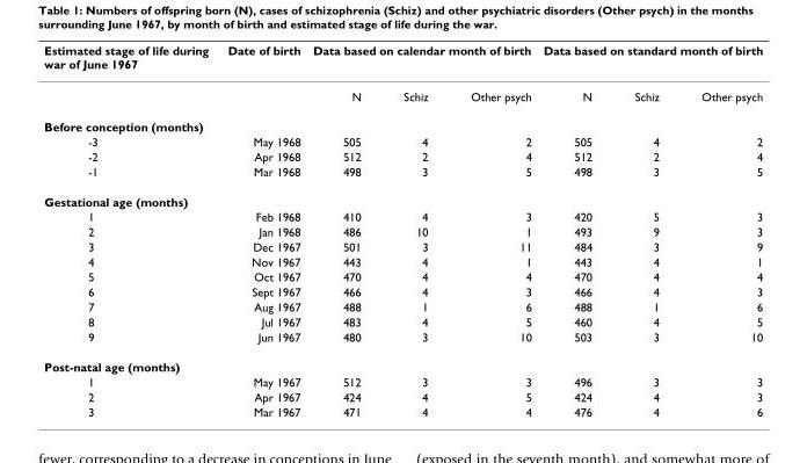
<table><thead><tr><td rowspan="2">Estimated stage of life during war of June 1967</td><td rowspan="2">Date of birth</td><td colspan="3">Data based on calendar month of birth</td><td colspan="3">Data based on standard month of birth</td></tr><tr><td>N</td><td>Schiz</td><td>Other psych</td><td>N</td><td>Schiz</td><td>Other psych</td></tr></thead><tbody><tr><td colspan="8">Before conception (months)</td></tr><tr><td>-3</td><td>May 1968</td><td>505</td><td>4</td><td>2</td><td>505</td><td>4</td><td>2</td></tr><tr><td>-2</td><td>Apr 1968</td><td>512</td><td>2</td><td>4</td><td>512</td><td>2</td><td>4</td></tr><tr><td>-1</td><td>Mar 1968</td><td>498</td><td>3</td><td>5</td><td>498</td><td>3</td><td>5</td></tr><tr><td colspan="8">Gestational age (months)</td></tr><tr><td>1</td><td>Feb 1968</td><td>410</td><td>4</td><td>3</td><td>420</td><td>5</td><td>3</td></tr><tr><td>2</td><td>Jan 1968</td><td>486</td><td>10</td><td>1</td><td>493</td><td>9</td><td>3</td></tr><tr><td>3</td><td>Dec 1967</td><td>501</td><td>3</td><td>11</td><td>484</td><td>3</td><td>9</td></tr><tr><td>4</td><td>Nov 1967</td><td>443</td><td>4</td><td>1</td><td>443</td><td>4</td><td>1</td></tr><tr><td>5</td><td>Oct 1967</td><td>470</td><td>4</td><td>4</td><td>470</td><td>4</td><td>4</td></tr><tr><td>6</td><td>Sept 1967</td><td>466</td><td>4</td><td>3</td><td>466</td><td>4</td><td>3</td></tr><tr><td>7</td><td>Aug 1967</td><td>488</td><td>1</td><td>6</td><td>488</td><td>1</td><td>6</td></tr><tr><td>8</td><td>Jul 1967</td><td>483</td><td>4</td><td>5</td><td>460</td><td>4</td><td>5</td></tr><tr><td>9</td><td>Jun 1967</td><td>480</td><td>3</td><td>10</td><td>503</td><td>3</td><td>10</td></tr><tr><td colspan="8">Post-natal age (months)</td></tr><tr><td>1</td><td>May 1967</td><td>512</td><td>3</td><td>3</td><td>496</td><td>3</td><td>3</td></tr><tr><td>2</td><td>Apr 1967</td><td>424</td><td>4</td><td>5</td><td>424</td><td>4</td><td>3</td></tr><tr><td>3</td><td>Mar 1967</td><td>471</td><td>4</td><td>4</td><td>476</td><td>4</td><td>6</td></tr></tbody></table>